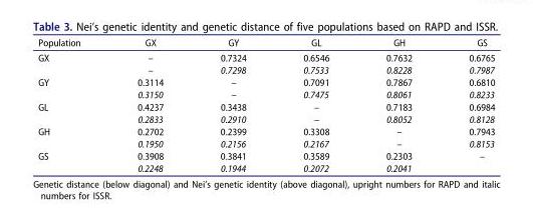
<table><thead><tr><td>Population</td><td>GX</td><td>GY</td><td>GL</td><td>GH</td><td>GS</td></tr></thead><tbody><tr><td rowspan="2">GX</td><td>–</td><td>0.7324</td><td>0.6546</td><td>0.7632</td><td>0.6765</td></tr><tr><td>–</td><td>0.7298</td><td>0.7533</td><td>0.8228</td><td>0.7987</td></tr><tr><td rowspan="2">GY</td><td>0.3114</td><td>–</td><td>0.7091</td><td>0.7867</td><td>0.6810</td></tr><tr><td>0.3150</td><td>–</td><td>0.7475</td><td>0.8061</td><td>0.8233</td></tr><tr><td rowspan="2">GL</td><td>0.4237</td><td>0.3438</td><td>–</td><td>0.7183</td><td>0.6984</td></tr><tr><td>0.2833</td><td>0.2910</td><td>–</td><td>0.8052</td><td>0.8128</td></tr><tr><td rowspan="2">GH</td><td>0.2702</td><td>0.2399</td><td>0.3308</td><td>–</td><td>0.7943</td></tr><tr><td>0.1950</td><td>0.2156</td><td>0.2167</td><td>–</td><td>0.8153</td></tr><tr><td rowspan="2">GS</td><td>0.3908</td><td>0.3841</td><td>0.3589</td><td>0.2303</td><td>–</td></tr><tr><td>0.2248</td><td>0.1944</td><td>0.2072</td><td>0.2041</td><td></td></tr></tbody></table>